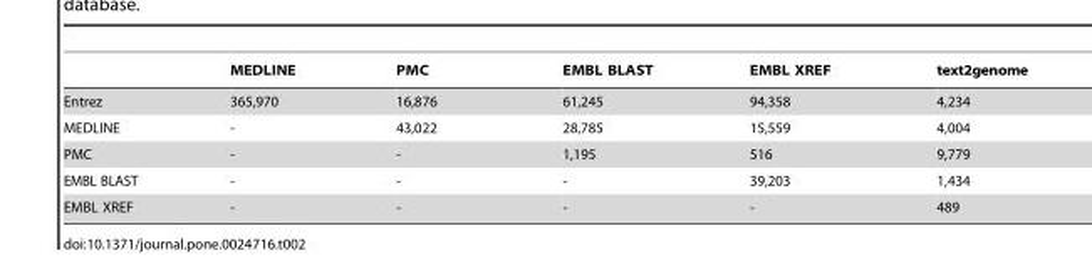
<table><thead><tr><td></td><td>MEDLINE</td><td>PMC</td><td>EMBL BLAST</td><td>EMBL XREF</td><td>text2genome</td></tr></thead><tbody><tr><td>Entrez</td><td>365,970</td><td>16,876</td><td>61,245</td><td>94,358</td><td>4,234</td></tr><tr><td>MEDLINE</td><td>-</td><td>43,022</td><td>28,785</td><td>15,559</td><td>4,004</td></tr><tr><td>PMC</td><td>-</td><td>-</td><td>1,195</td><td>516</td><td>9,779</td></tr><tr><td>EMBL BLAST</td><td>-</td><td>-</td><td>-</td><td>39,203</td><td>1,434</td></tr><tr><td>EMBL XREF</td><td>-</td><td>-</td><td>-</td><td>-</td><td>489</td></tr></tbody></table>